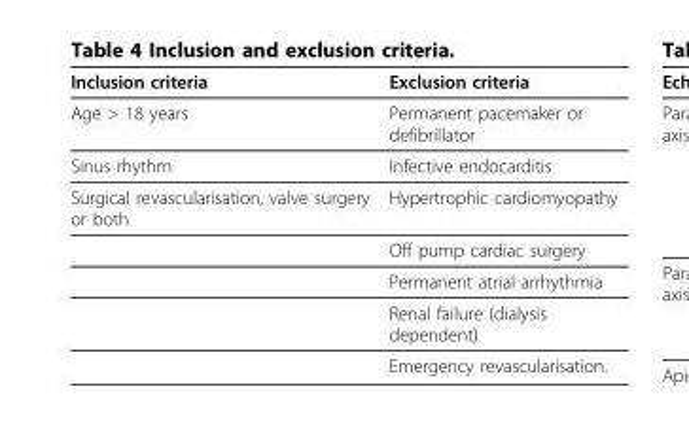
<table><thead><tr><td>Inclusion criteria</td><td>Exclusion criteria</td></tr></thead><tbody><tr><td>Age &gt; 18 years</td><td>Permanent pacemaker or defibrillator</td></tr><tr><td>Sinus rhythm</td><td>Infective endocarditis</td></tr><tr><td rowspan="5">Surgical revascularisation, valve surgery or both</td><td>Hypertrophic cardiomyopathy</td></tr><tr><td>Off pump cardiac surgery</td></tr><tr><td>Permanent atrial arrhythmia</td></tr><tr><td>Renal failure (dialysis dependent)</td></tr><tr><td>Emergency revascularisation.</td></tr></tbody></table>